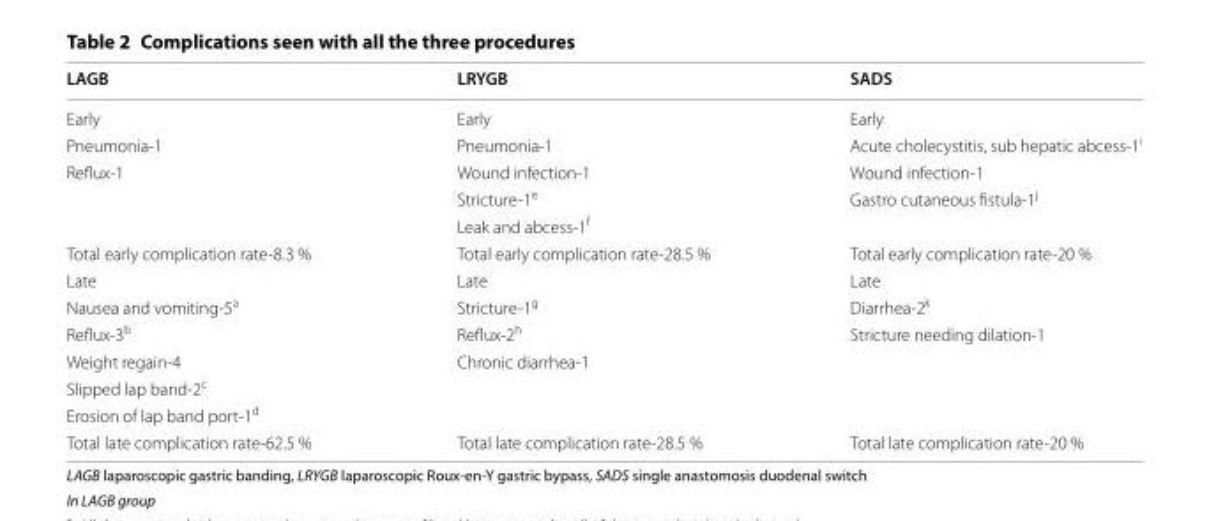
<table><thead><tr><td>LAGB</td><td>LRYGB</td><td>SADS</td></tr></thead><tbody><tr><td>Early</td><td>Early</td><td>Early</td></tr><tr><td>Pneumonia-1</td><td>Pneumonia-1</td><td>Acute cholecystitis, sub hepatic abcess-1<sup>i</sup></td></tr><tr><td rowspan="3">Reflux-1</td><td>Wound infection-1</td><td>Wound infection-1</td></tr><tr><td>Stricture-1<sup>e</sup></td><td>Gastro cutaneous fistula-1<sup>j</sup></td></tr><tr><td>Leak and abcess-1<sup>f</sup></td><td></td></tr><tr><td>Total early complication rate-8.3 %</td><td>Total early complication rate-28.5 %</td><td>Total early complication rate-20 %</td></tr><tr><td>Late</td><td>Late</td><td>Late</td></tr><tr><td>Nausea and vomiting-5<sup>a</sup></td><td>Stricture-1<sup>g</sup></td><td>Diarrhea-2<sup>k</sup></td></tr><tr><td>Reflux-3<sup>b</sup></td><td>Reflux-2<sup>h</sup></td><td>Stricture needing dilation-1</td></tr><tr><td>Weight regain-4</td><td>Chronic diarrhea-1</td><td></td></tr><tr><td colspan="3">Slipped lap band-2<sup>c</sup></td></tr><tr><td colspan="3">Erosion of lap band port-1<sup>d</sup></td></tr><tr><td>Total late complication rate-62.5 %</td><td>Total late complication rate-28.5 %</td><td>Total late complication rate-20 %</td></tr></tbody></table>